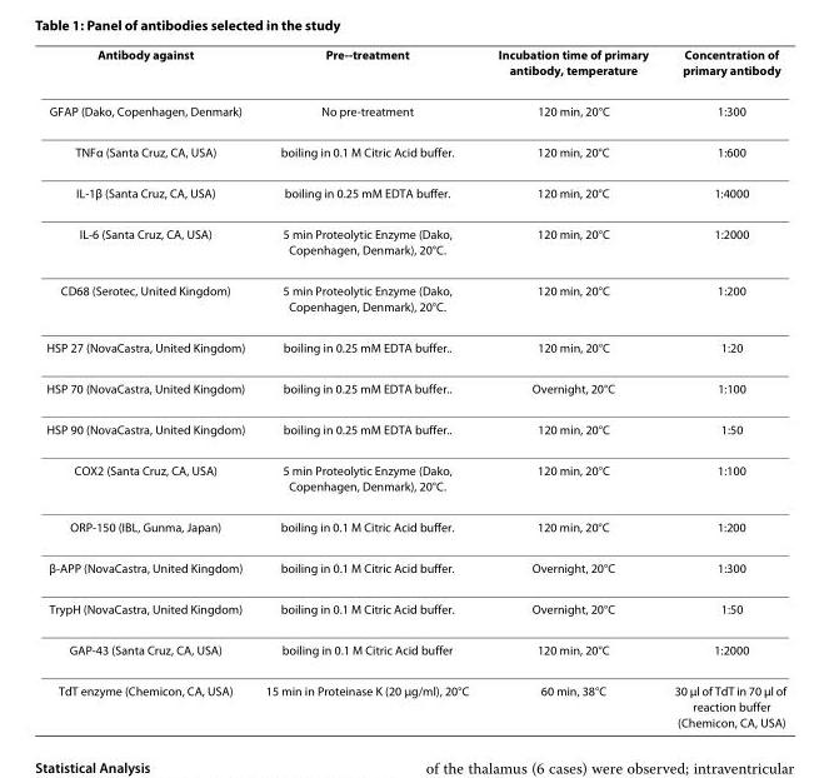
<table><thead><tr><td>Antibody against</td><td>Pre--treatment</td><td>Incubation time of primary antibody, temperature</td><td>Concentration of primary antibody</td></tr></thead><tbody><tr><td>GFAP (Dako, Copenhagen, Denmark)</td><td>No pre-treatment</td><td>120 min, 20°C</td><td>1:300</td></tr><tr><td>TNFα (Santa Cruz, CA, USA)</td><td>boiling in 0.1 M Citric Acid buffer.</td><td>120 min, 20°C</td><td>1:600</td></tr><tr><td>IL-1β (Santa Cruz, CA, USA)</td><td>boiling in 0.25 mM EDTA buffer.</td><td>120 min, 20°C</td><td>1:4000</td></tr><tr><td>IL-6 (Santa Cruz, CA, USA)</td><td>5 min Proteolytic Enzyme (Dako, Copenhagen, Denmark), 20°C.</td><td>120 min, 20°C</td><td>1:2000</td></tr><tr><td>CD68 (Serotec, United Kingdom)</td><td>5 min Proteolytic Enzyme (Dako, Copenhagen, Denmark), 20°C.</td><td>120 min, 20°C</td><td>1:200</td></tr><tr><td>HSP 27 (NovaCastra, United Kingdom)</td><td>boiling in 0.25 mM EDTA buffer..</td><td>120 min, 20°C</td><td>1:20</td></tr><tr><td>HSP 70 (NovaCastra, United Kingdom)</td><td>boiling in 0.25 mM EDTA buffer..</td><td>Overnight, 20°C</td><td>1:100</td></tr><tr><td>HSP 90 (NovaCastra, United Kingdom)</td><td>boiling in 0.25 mM EDTA buffer..</td><td>120 min, 20°C</td><td>1:50</td></tr><tr><td>COX2 (Santa Cruz, CA, USA)</td><td>5 min Proteolytic Enzyme (Dako, Copenhagen, Denmark), 20°C.</td><td>120 min, 20°C</td><td>1:100</td></tr><tr><td>ORP-150 (IBL, Gunma, Japan)</td><td>boiling in 0.1 M Citric Acid buffer.</td><td>120 min, 20°C</td><td>1:200</td></tr><tr><td>β-APP (NovaCastra, United Kingdom)</td><td>boiling in 0.1 M Citric Acid buffer.</td><td>Overnight, 20°C</td><td>1:300</td></tr><tr><td>TrypH (NovaCastra, United Kingdom)</td><td>boiling in 0.1 M Citric Acid buffer.</td><td>Overnight, 20°C</td><td>1:50</td></tr><tr><td>GAP-43 (Santa Cruz, CA, USA)</td><td>boiling in 0.1 M Citric Acid buffer</td><td>120 min, 20°C</td><td>1:2000</td></tr><tr><td>TdT enzyme (Chemicon, CA, USA)</td><td>15 min in Proteinase K (20 μg/ml), 20°C</td><td>60 min, 38°C</td><td>30 μl of TdT in 70 μl of reaction buffer (Chemicon, CA, USA)</td></tr></tbody></table>